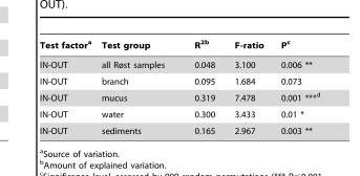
<table><thead><tr><td>Test factor<sup>a</sup></td><td>Test group</td><td>R<sup>2</sup>b</td><td>F-ratio</td><td>P<sup>c</sup></td></tr></thead><tbody><tr><td>IN-OUT</td><td>all Røst samples</td><td>0.048</td><td>3.100</td><td>0.006 **</td></tr><tr><td>IN-OUT</td><td>branch</td><td>0.095</td><td>1.684</td><td>0.073</td></tr><tr><td>IN-OUT</td><td>mucus</td><td>0.319</td><td>7.478</td><td>0.001 ***<sup>d</sup></td></tr><tr><td>IN-OUT</td><td>water</td><td>0.300</td><td>3.433</td><td>0.01 *</td></tr><tr><td>IN-OUT</td><td>sediments</td><td>0.165</td><td>2.967</td><td>0.003 **</td></tr></tbody></table>